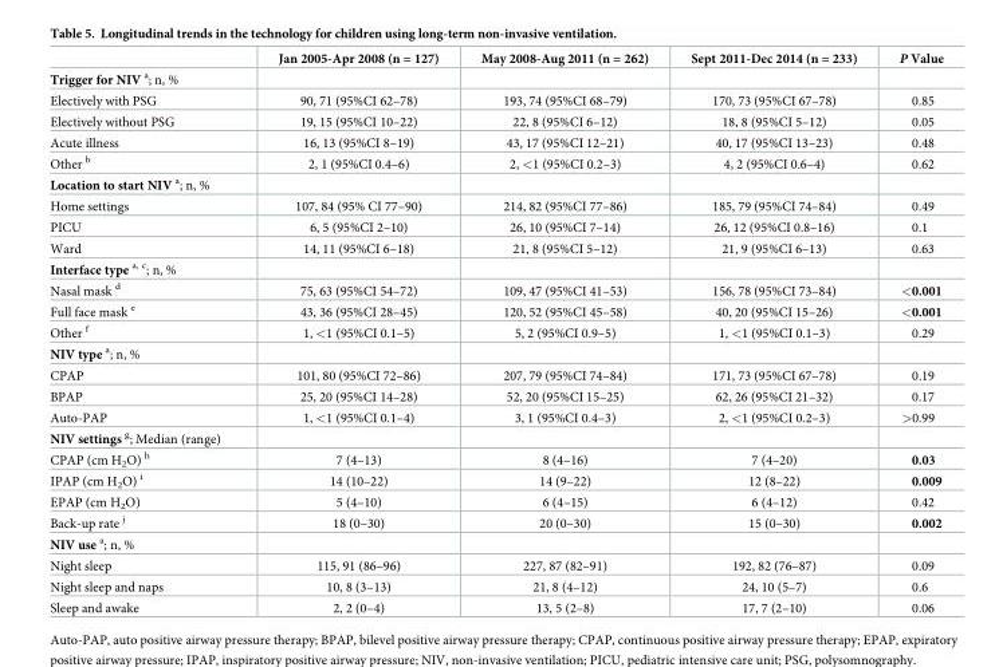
<table><thead><tr><td></td><td>Jan 2005-Apr 2008 (n = 127)</td><td>May 2008-Aug 2011 (n = 262)</td><td>Sept 2011-Dec 2014 (n = 233)</td><td>P Value</td></tr></thead><tbody><tr><td colspan="5">Trigger for NIV <sup>a</sup>; n, %</td></tr><tr><td>Electively with PSG</td><td>90, 71 (95%CI 62–78)</td><td>193, 74 (95%CI 68–79)</td><td>170, 73 (95%CI 67–78)</td><td>0.85</td></tr><tr><td>Electively without PSG</td><td>19, 15 (95%CI 10–22)</td><td>22, 8 (95%CI 6–12)</td><td>18, 8 (95%CI 5–12)</td><td>0.05</td></tr><tr><td>Acute illness</td><td>16, 13 (95%CI 8–19)</td><td>43, 17 (95%CI 12–21)</td><td>40, 17 (95%CI 13–23)</td><td>0.48</td></tr><tr><td>Other <sup>b</sup></td><td>2, 1 (95%CI 0.4–6)</td><td>2, &lt;1 (95%CI 0.2–3)</td><td>4, 2 (95%CI 0.6–4)</td><td>0.62</td></tr><tr><td colspan="5">Location to start NIV <sup>a</sup>; n, %</td></tr><tr><td>Home settings</td><td>107, 84 (95% CI 77–90)</td><td>214, 82 (95%CI 77–86)</td><td>185, 79 (95%CI 74–84)</td><td>0.49</td></tr><tr><td>PICU</td><td>6, 5 (95%CI 2–10)</td><td>26, 10 (95%CI 7–14)</td><td>26, 12 (95%CI 0.8–16)</td><td>0.1</td></tr><tr><td>Ward</td><td>14, 11 (95%CI 6–18)</td><td>21, 8 (95%CI 5–12)</td><td>21, 9 (95%CI 6–13)</td><td>0.63</td></tr><tr><td colspan="5">Interface type <sup>a, c</sup>; n, %</td></tr><tr><td>Nasal mask <sup>d</sup></td><td>75, 63 (95%CI 54–72)</td><td>109, 47 (95%CI 41–53)</td><td>156, 78 (95%CI 73–84)</td><td>&lt;0.001</td></tr><tr><td>Full face mask <sup>e</sup></td><td>43, 36 (95%CI 28–45)</td><td>120, 52 (95%CI 45–58)</td><td>40, 20 (95%CI 15–26)</td><td>&lt;0.001</td></tr><tr><td>Other <sup>f</sup></td><td>1, &lt;1 (95%CI 0.1–5)</td><td>5, 2 (95%CI 0.9–5)</td><td>1, &lt;1 (95%CI 0.1–3)</td><td>0.29</td></tr><tr><td colspan="5">NIV type <sup>a</sup>; n, %</td></tr><tr><td>CPAP</td><td>101, 80 (95%CI 72–86)</td><td>207, 79 (95%CI 74–84)</td><td>171, 73 (95%CI 67–78)</td><td>0.19</td></tr><tr><td>BPAP</td><td>25, 20 (95%CI 14–28)</td><td>52, 20 (95%CI 15–25)</td><td>62, 26 (95%CI 21–32)</td><td>0.17</td></tr><tr><td>Auto-PAP</td><td>1, &lt;1 (95%CI 0.1–4)</td><td>3, 1 (95%CI 0.4–3)</td><td>2, &lt;1 (95%CI 0.2–3)</td><td>&gt;0.99</td></tr><tr><td colspan="5">NIV settings <sup>g</sup>; Median (range)</td></tr><tr><td>CPAP (cm H<sub>2</sub>O) <sup>h</sup></td><td>7 (4–13)</td><td>8 (4–16)</td><td>7 (4–20)</td><td>0.03</td></tr><tr><td>IPAP (cm H<sub>2</sub>O) <sup>i</sup></td><td>14 (10–22)</td><td>14 (9–22)</td><td>12 (8–22)</td><td>0.009</td></tr><tr><td>EPAP (cm H<sub>2</sub>O)</td><td>5 (4–10)</td><td>6 (4–15)</td><td>6 (4–12)</td><td>0.42</td></tr><tr><td>Back-up rate <sup>j</sup></td><td>18 (0–30)</td><td>20 (0–30)</td><td>15 (0–30)</td><td>0.002</td></tr><tr><td colspan="5">NIV use <sup>a</sup>; n, %</td></tr><tr><td>Night sleep</td><td>115, 91 (86–96)</td><td>227, 87 (82–91)</td><td>192, 82 (76–87)</td><td>0.09</td></tr><tr><td>Night sleep and naps</td><td>10, 8 (3–13)</td><td>21, 8 (4–12)</td><td>24, 10 (5–7)</td><td>0.6</td></tr><tr><td>Sleep and awake</td><td>2, 2 (0–4)</td><td>13, 5 (2–8)</td><td>17, 7 (2–10)</td><td>0.06</td></tr></tbody></table>